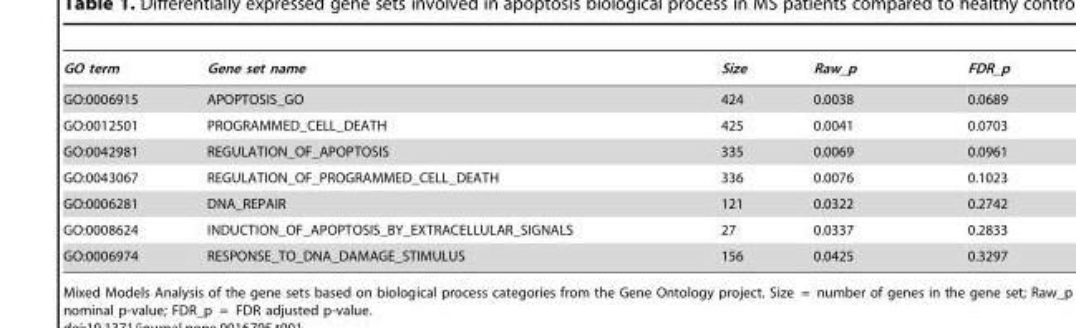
<table><thead><tr><td>GO term</td><td>Gene set name</td><td>Size</td><td>Raw_p</td><td>FDR_p</td></tr></thead><tbody><tr><td>GO:0006915</td><td>APOPTOSIS_GO</td><td>424</td><td>0.0038</td><td>0.0689</td></tr><tr><td>GO:0012501</td><td>PROGRAMMED_CELL_DEATH</td><td>425</td><td>0.0041</td><td>0.0703</td></tr><tr><td>GO:0042981</td><td>REGULATION_OF_APOPTOSIS</td><td>335</td><td>0.0069</td><td>0.0961</td></tr><tr><td>GO:0043067</td><td>REGULATION_OF_PROGRAMMED_CELL_DEATH</td><td>336</td><td>0.0076</td><td>0.1023</td></tr><tr><td>GO:0006281</td><td>DNA_REPAIR</td><td>121</td><td>0.0322</td><td>0.2742</td></tr><tr><td>GO:0008624</td><td>INDUCTION_OF_APOPTOSIS_BY_EXTRACELLULAR_SIGNALS</td><td>27</td><td>0.0337</td><td>0.2833</td></tr><tr><td>GO:0006974</td><td>RESPONSE_TO_DNA_DAMAGE_STIMULUS</td><td>156</td><td>0.0425</td><td>0.3297</td></tr></tbody></table>